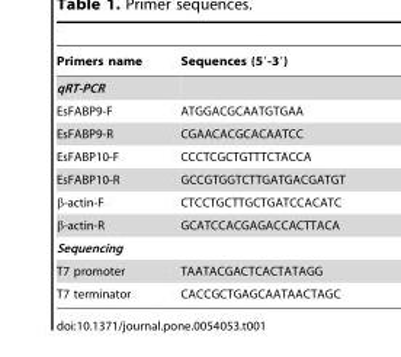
<table><thead><tr><td>Primers name</td><td>Sequences (5′-3′)</td></tr></thead><tbody><tr><td colspan="2">qRT-PCR</td></tr><tr><td>EsFABP9-F</td><td>ATGGACGCAATGTGAA</td></tr><tr><td>EsFABP9-R</td><td>CGAACACGCACAATCC</td></tr><tr><td>EsFABP10-F</td><td>CCCTCGCTGTTTCTACCA</td></tr><tr><td>EsFABP10-R</td><td>GCCGTGGTCTTGATGACGATGT</td></tr><tr><td>β-actin-F</td><td>CTCCTGCTTGCTGATCCACATC</td></tr><tr><td>β-actin-R</td><td>GCATCCACGAGACCACTTACA</td></tr><tr><td colspan="2">Sequencing</td></tr><tr><td>T7 promoter</td><td>TAATACGACTCACTATAGG</td></tr><tr><td>T7 terminator</td><td>CACCGCTGAGCAATAACTAGC</td></tr></tbody></table>